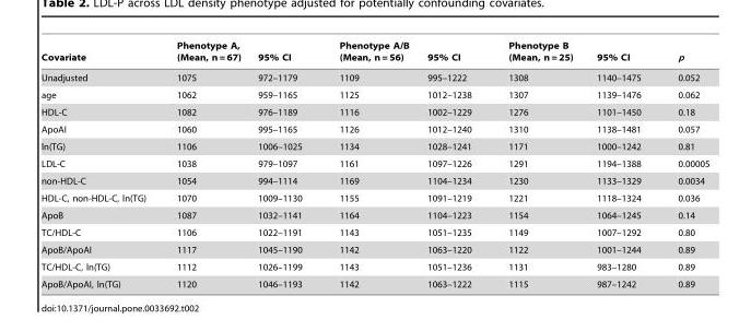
<table><thead><tr><td>Covariate</td><td>Phenotype A, (Mean, n = 67)</td><td>95% CI</td><td>Phenotype A/B (Mean, n = 56)</td><td>95% CI</td><td>Phenotype B (Mean, n = 25)</td><td>95% CI</td><td>p</td></tr></thead><tbody><tr><td>Unadjusted</td><td>1075</td><td>972–1179</td><td>1109</td><td>995–1222</td><td>1308</td><td>1140–1475</td><td>0.052</td></tr><tr><td>age</td><td>1062</td><td>959–1165</td><td>1125</td><td>1012–1238</td><td>1307</td><td>1139–1476</td><td>0.062</td></tr><tr><td>HDL-C</td><td>1082</td><td>976–1189</td><td>1116</td><td>1002–1229</td><td>1276</td><td>1101–1450</td><td>0.18</td></tr><tr><td>ApoAI</td><td>1060</td><td>995–1165</td><td>1126</td><td>1012–1240</td><td>1310</td><td>1138–1481</td><td>0.057</td></tr><tr><td>ln(TG)</td><td>1106</td><td>1006–1025</td><td>1134</td><td>1028–1241</td><td>1171</td><td>1000–1242</td><td>0.81</td></tr><tr><td>LDL-C</td><td>1038</td><td>979–1097</td><td>1161</td><td>1097–1226</td><td>1291</td><td>1194–1388</td><td>0.00005</td></tr><tr><td>non-HDL-C</td><td>1054</td><td>994–1114</td><td>1169</td><td>1104–1234</td><td>1230</td><td>1133–1329</td><td>0.0034</td></tr><tr><td>HDL-C, non-HDL-C, ln(TG)</td><td>1070</td><td>1009–1130</td><td>1155</td><td>1091–1219</td><td>1221</td><td>1118–1324</td><td>0.036</td></tr><tr><td>ApoB</td><td>1087</td><td>1032–1141</td><td>1164</td><td>1104–1223</td><td>1154</td><td>1064–1245</td><td>0.14</td></tr><tr><td>TC/HDL-C</td><td>1106</td><td>1022–1191</td><td>1143</td><td>1051–1235</td><td>1149</td><td>1007–1292</td><td>0.80</td></tr><tr><td>ApoB/ApoAI</td><td>1117</td><td>1045–1190</td><td>1142</td><td>1063–1220</td><td>1122</td><td>1001–1244</td><td>0.89</td></tr><tr><td>TC/HDL-C, ln(TG)</td><td>1112</td><td>1026–1199</td><td>1143</td><td>1051–1236</td><td>1131</td><td>983–1280</td><td>0.89</td></tr><tr><td>ApoB/ApoAI, ln(TG)</td><td>1120</td><td>1046–1193</td><td>1142</td><td>1063–1222</td><td>1115</td><td>987–1242</td><td>0.89</td></tr></tbody></table>